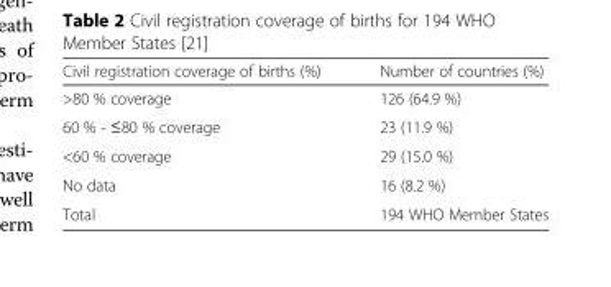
<table><thead><tr><td>Civil registration coverage of births (%)</td><td>Number of countries (%)</td></tr></thead><tbody><tr><td>&gt;80 % coverage</td><td>126 (64.9 %)</td></tr><tr><td>60 % - ≤80 % coverage</td><td>23 (11.9 %)</td></tr><tr><td>&lt;60 % coverage</td><td>29 (15.0 %)</td></tr><tr><td>No data</td><td>16 (8.2 %)</td></tr><tr><td>Total</td><td>194 WHO Member States</td></tr></tbody></table>